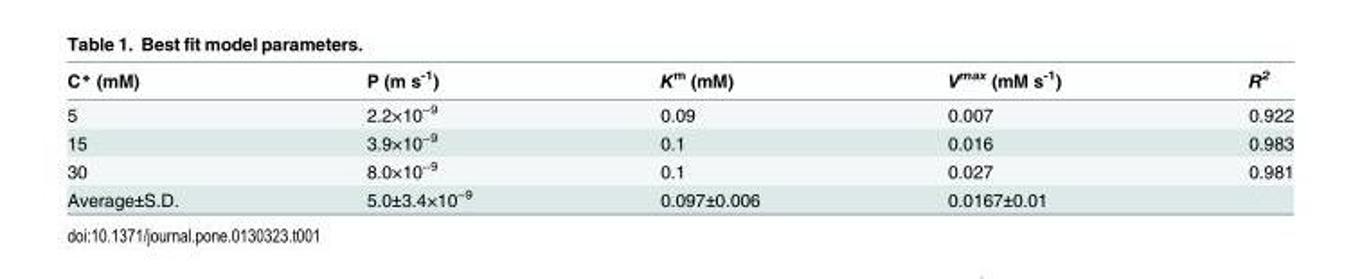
<table><thead><tr><td>C* (mM)</td><td>P (m s<sup>-1</sup>)</td><td>K<sup>m</sup> (mM)</td><td>V<sup>max</sup> (mM s<sup>-1</sup>)</td><td>R<sup>2</sup></td></tr></thead><tbody><tr><td>5</td><td>2.2×10<sup>−9</sup></td><td>0.09</td><td>0.007</td><td>0.922</td></tr><tr><td>15</td><td>3.9×10<sup>−9</sup></td><td>0.1</td><td>0.016</td><td>0.983</td></tr><tr><td>30</td><td>8.0×10<sup>−9</sup></td><td>0.1</td><td>0.027</td><td>0.981</td></tr><tr><td>Average±S.D.</td><td>5.0±3.4×10<sup>−9</sup></td><td>0.097±0.006</td><td>0.0167±0.01</td><td></td></tr></tbody></table>